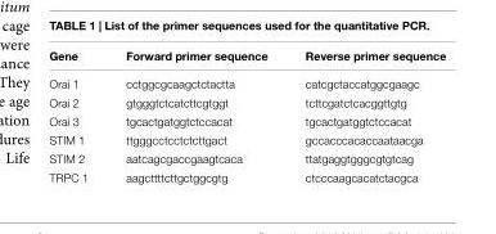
<table><thead><tr><td>Gene</td><td>Forward primer sequence</td><td>Reverse primer sequence</td></tr></thead><tbody><tr><td>Orai 1</td><td>cctggcgcaagctctactta</td><td>catcgctaccatggcgaagc</td></tr><tr><td>Orai 2</td><td>gtgggtctcatcttcgtggt</td><td>tcttcgatctcacggttgtg</td></tr><tr><td>Orai 3</td><td>tgcactgatggtctccacat</td><td>tgcactgatggtctccacat</td></tr><tr><td>STIM 1</td><td>ttgggcctcctctcttgact</td><td>gccacccacaccaataacga</td></tr><tr><td>STIM 2</td><td>aatcagcgaccgaagtcaca</td><td>ttatgaggtgggcgtgtcag</td></tr><tr><td>TRPC 1</td><td>aagcttttcttgctggcgtg</td><td>ctcccaagcacatctacgca</td></tr></tbody></table>